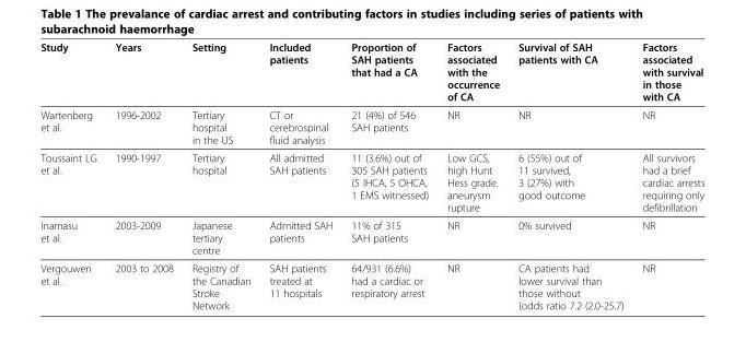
<table><thead><tr><td>Study</td><td>Years</td><td>Setting</td><td>Included patients</td><td>Proportion of SAH patients that had a CA</td><td>Factors associated with the occurrence of CA</td><td>Survival of SAH patients with CA</td><td>Factors associated with survival in those with CA</td></tr></thead><tbody><tr><td>Wartenberg et al.</td><td>1996-2002</td><td>Tertiary hospital in the US</td><td>CT or cerebrospinal fluid analysis</td><td>21 (4%) of 546 SAH patients</td><td>NR</td><td>NR</td><td>NR</td></tr><tr><td>Toussaint LG et al.</td><td>1990-1997</td><td>Tertiary hospital</td><td>All admitted SAH patients</td><td>11 (3.6%) out of 305 SAH patients (5 IHCA, 5 OHCA, 1 EMS witnessed)</td><td>Low GCS, high Hunt Hess grade. aneurysm rupture</td><td>6 (55%) out of 11 survived, 3 (27%) with good outcome</td><td>All survivors had a brief cardiac arrests requiring only defibrillation</td></tr><tr><td>Inamasu et al.</td><td>2003-2009</td><td>Japanese tertiary centre</td><td>Admitted SAH patients</td><td>11% of 315 SAH patients</td><td>NR</td><td>0% survived</td><td>NR</td></tr><tr><td>Vergouwen et al.</td><td>2003 to 2008</td><td>Registry of the Canadian Stroke Network</td><td>SAH patients treated at 11 hospitals</td><td>64/931 (6.6%) had a cardiac or respiratory arrest</td><td>NR</td><td>CA patients had lower survival than those without (odds ratio 7.2 (2.0-25.7)</td><td>NR</td></tr></tbody></table>